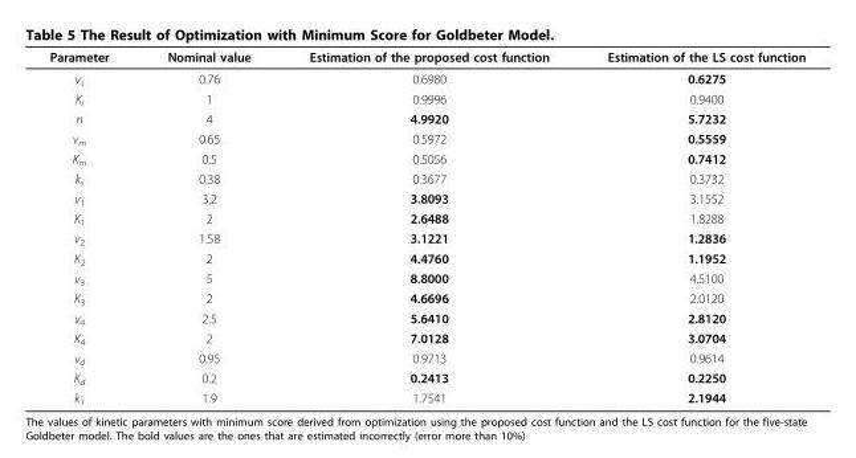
<table><thead><tr><td>Parameter</td><td>Nominal value</td><td>Estimation of the proposed cost function</td><td>Estimation of the LS cost function</td></tr></thead><tbody><tr><td>v<sub>s</sub></td><td>0.76</td><td>0.6980</td><td>0.6275</td></tr><tr><td>K<sub>I</sub></td><td>1</td><td>0.9996</td><td>0.9400</td></tr><tr><td>n</td><td>4</td><td>4.9920</td><td>5.7232</td></tr><tr><td>v<sub>m</sub></td><td>0.65</td><td>0.5972</td><td>0.5559</td></tr><tr><td>K<sub>m</sub></td><td>0.5</td><td>0.5056</td><td>0.7412</td></tr><tr><td>k<sub>s</sub></td><td>0.38</td><td>0.3677</td><td>0.3732</td></tr><tr><td>v<sub>1</sub></td><td>3.2</td><td>3.8093</td><td>3.1552</td></tr><tr><td>K<sub>1</sub></td><td>2</td><td>2.6488</td><td>1.8288</td></tr><tr><td>v<sub>2</sub></td><td>1.58</td><td>3.1221</td><td>1.2836</td></tr><tr><td>K<sub>2</sub></td><td>2</td><td>4.4760</td><td>1.1952</td></tr><tr><td>v<sub>3</sub></td><td>5</td><td>8.8000</td><td>4.5100</td></tr><tr><td>K<sub>3</sub></td><td>2</td><td>4.6696</td><td>2.0120</td></tr><tr><td>v<sub>4</sub></td><td>2.5</td><td>5.6410</td><td>2.8120</td></tr><tr><td>K<sub>4</sub></td><td>2</td><td>7.0128</td><td>3.0704</td></tr><tr><td>v<sub>d</sub></td><td>0.95</td><td>0.9713</td><td>0.9614</td></tr><tr><td>K<sub>d</sub></td><td>0.2</td><td>0.2413</td><td>0.2250</td></tr><tr><td>k<sub>1</sub></td><td>1.9</td><td>1.7541</td><td>2.1944</td></tr></tbody></table>